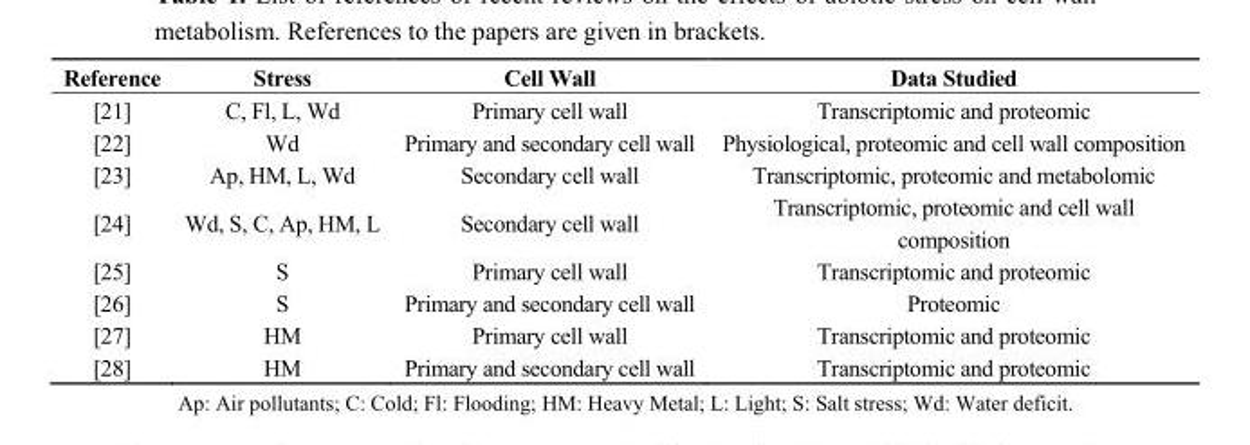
<table><thead><tr><td>Reference</td><td>Stress</td><td>Cell Wall</td><td>Data Studied</td></tr></thead><tbody><tr><td>[21]</td><td>C, Fl, L, Wd</td><td>Primary cell wall</td><td>Transcriptomic and proteomic</td></tr><tr><td>[22]</td><td>Wd</td><td>Primary and secondary cell wall</td><td>Physiological, proteomic and cell wall composition</td></tr><tr><td>[23]</td><td>Ap, HM, L, Wd</td><td>Secondary cell wall</td><td>Transcriptomic, proteomic and metabolomic</td></tr><tr><td>[24]</td><td>Wd, S, C, Ap, HM, L</td><td>Secondary cell wall</td><td>Transcriptomic, proteomic and cell wall composition</td></tr><tr><td>[25]</td><td>S</td><td>Primary cell wall</td><td>Transcriptomic and proteomic</td></tr><tr><td>[26]</td><td>S</td><td>Primary and secondary cell wall</td><td>Proteomic</td></tr><tr><td>[27]</td><td>HM</td><td>Primary cell wall</td><td>Transcriptomic and proteomic</td></tr><tr><td>[28]</td><td>HM</td><td>Primary and secondary cell wall</td><td>Transcriptomic and proteomic</td></tr></tbody></table>